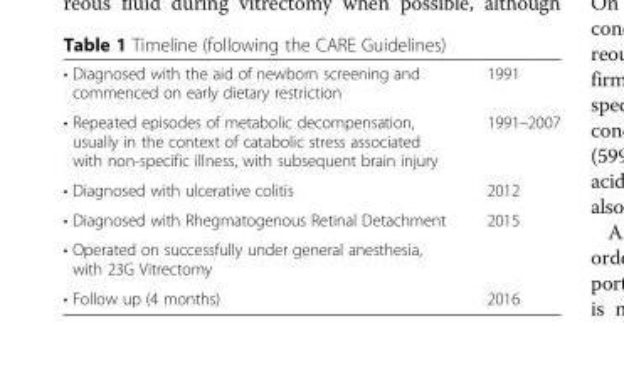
<table><tbody><tr><td>• Diagnosed with the aid of newborn screening and commenced on early dietary restriction</td><td>1991</td></tr><tr><td>• Repeated episodes of metabolic decompensation, usually in the context of catabolic stress associated with non-specific illness, with subsequent brain injury</td><td>1991–2007</td></tr><tr><td>• Diagnosed with ulcerative colitis</td><td>2012</td></tr><tr><td>• Diagnosed with Rhegmatogenous Retinal Detachment</td><td rowspan="2">2015</td></tr><tr><td>• Operated on successfully under general anesthesia, with 23G Vitrectomy</td></tr><tr><td>• Follow up (4 months)</td><td>2016</td></tr></tbody></table>